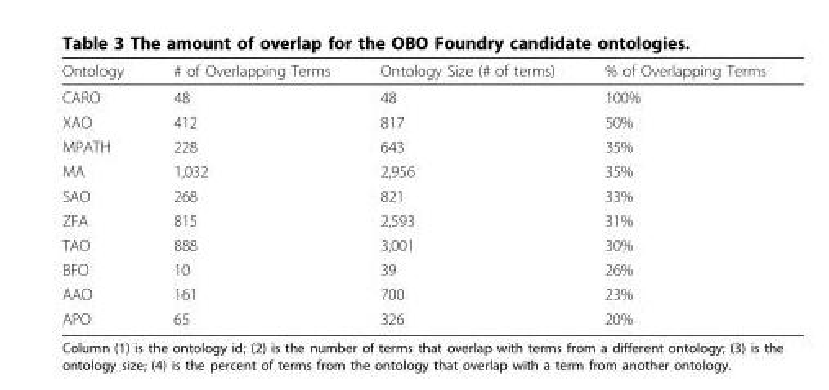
<table><thead><tr><td>Ontology</td><td># of Overlapping Terms</td><td>Ontology Size (# of terms)</td><td>% of Overlapping Terms</td></tr></thead><tbody><tr><td>CARO</td><td>48</td><td>48</td><td>100%</td></tr><tr><td>XAO</td><td>412</td><td>817</td><td>50%</td></tr><tr><td>MPATH</td><td>228</td><td>643</td><td>35%</td></tr><tr><td>MA</td><td>1,032</td><td>2,956</td><td>35%</td></tr><tr><td>SAO</td><td>268</td><td>821</td><td>33%</td></tr><tr><td>ZFA</td><td>815</td><td>2,593</td><td>31%</td></tr><tr><td>TAO</td><td>888</td><td>3,001</td><td>30%</td></tr><tr><td>BFO</td><td>10</td><td>39</td><td>26%</td></tr><tr><td>AAO</td><td>161</td><td>700</td><td>23%</td></tr><tr><td>APO</td><td>65</td><td>326</td><td>20%</td></tr></tbody></table>